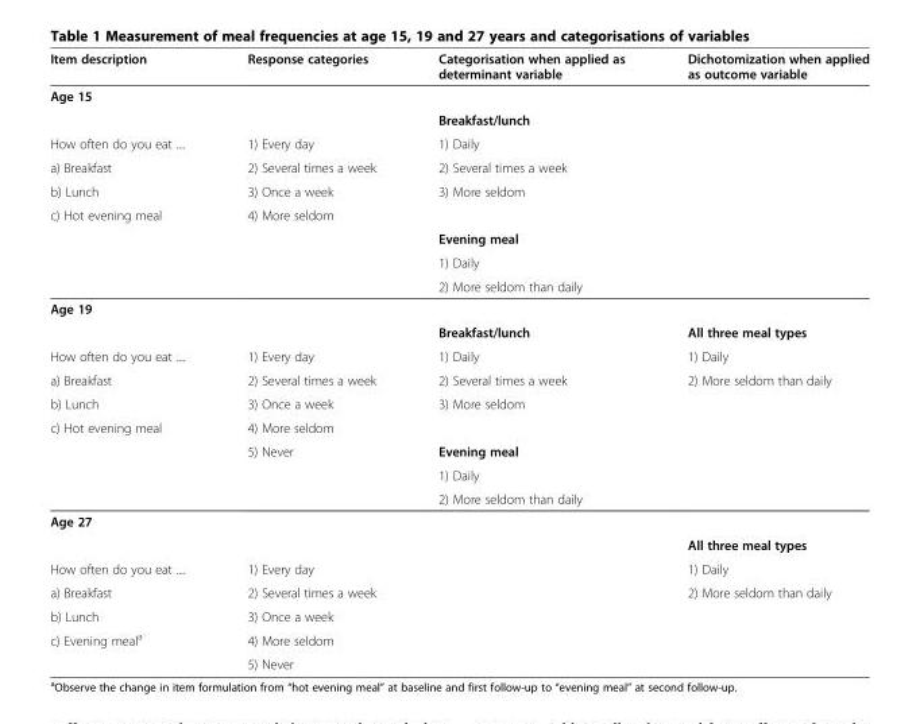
<table><thead><tr><td>Item description</td><td>Response categories</td><td>Categorisation when applied as determinant variable</td><td>Dichotomization when applied as outcome variable</td></tr></thead><tbody><tr><td colspan="4">Age 15</td></tr><tr><td></td><td></td><td>Breakfast/lunch</td><td></td></tr><tr><td>How often do you eat ....</td><td>1) Every day</td><td>1) Daily</td><td></td></tr><tr><td>a) Breakfast</td><td>2) Several times a week</td><td>2) Several times a week</td><td></td></tr><tr><td>b) Lunch</td><td>3) Once a week</td><td>3) More seldom</td><td></td></tr><tr><td rowspan="4">c) Hot evening meal</td><td>4) More seldom</td><td></td><td></td></tr><tr><td></td><td>Evening meal</td><td></td></tr><tr><td></td><td>1) Daily</td><td></td></tr><tr><td></td><td>2) More seldom than daily</td><td></td></tr><tr><td colspan="4">Age 19</td></tr><tr><td></td><td></td><td>Breakfast/lunch</td><td>All three meal types</td></tr><tr><td>How often do you eat ....</td><td>1) Every day</td><td>1) Daily</td><td>1) Daily</td></tr><tr><td>a) Breakfast</td><td>2) Several times a week</td><td>2) Several times a week</td><td>2) More seldom than daily</td></tr><tr><td>b) Lunch</td><td>3) Once a week</td><td>3) More seldom</td><td></td></tr><tr><td rowspan="4">c) Hot evening meal</td><td>4) More seldom</td><td></td><td></td></tr><tr><td>5) Never</td><td>Evening meal</td><td></td></tr><tr><td></td><td>1) Daily</td><td></td></tr><tr><td></td><td>2) More seldom than daily</td><td></td></tr><tr><td colspan="4">Age 27</td></tr><tr><td></td><td></td><td></td><td>All three meal types</td></tr><tr><td>How often do you eat ....</td><td>1) Every day</td><td></td><td>1) Daily</td></tr><tr><td>a) Breakfast</td><td>2) Several times a week</td><td></td><td>2) More seldom than daily</td></tr><tr><td>b) Lunch</td><td>3) Once a week</td><td></td><td></td></tr><tr><td rowspan="2">c) Evening meal<sup>a</sup></td><td>4) More seldom</td><td></td><td></td></tr><tr><td>5) Never</td><td></td><td></td></tr></tbody></table>